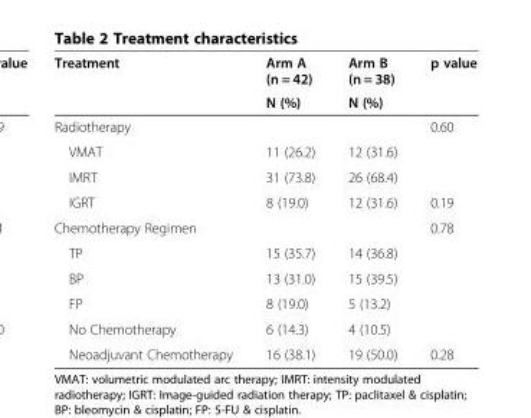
<table><thead><tr><td rowspan="2">Treatment</td><td rowspan="2">Arm A (n = 42) N (%)</td><td rowspan="2">Arm B (n = 38) N (%)</td><td rowspan="2">p value</td></tr><tr></tr></thead><tbody><tr><td>Radiotherapy</td><td></td><td></td><td>0.60</td></tr><tr><td>VMAT</td><td>11 (26.2)</td><td>12 (31.6)</td><td></td></tr><tr><td>IMRT</td><td>31 (73.8)</td><td>26 (68.4)</td><td></td></tr><tr><td>IGRT</td><td>8 (19.0)</td><td>12 (31.6)</td><td>0.19</td></tr><tr><td>Chemotherapy Regimen</td><td></td><td></td><td>0.78</td></tr><tr><td>TP</td><td>15 (35.7)</td><td>14 (36.8)</td><td></td></tr><tr><td>BP</td><td>13 (31.0)</td><td>15 (39.5)</td><td></td></tr><tr><td>FP</td><td>8 (19.0)</td><td>5 (13.2)</td><td></td></tr><tr><td>No Chemotherapy</td><td>6 (14.3)</td><td>4 (10.5)</td><td></td></tr><tr><td>Neoadjuvant Chemotherapy</td><td>16 (38.1)</td><td>19 (50.0)</td><td>0.28</td></tr></tbody></table>